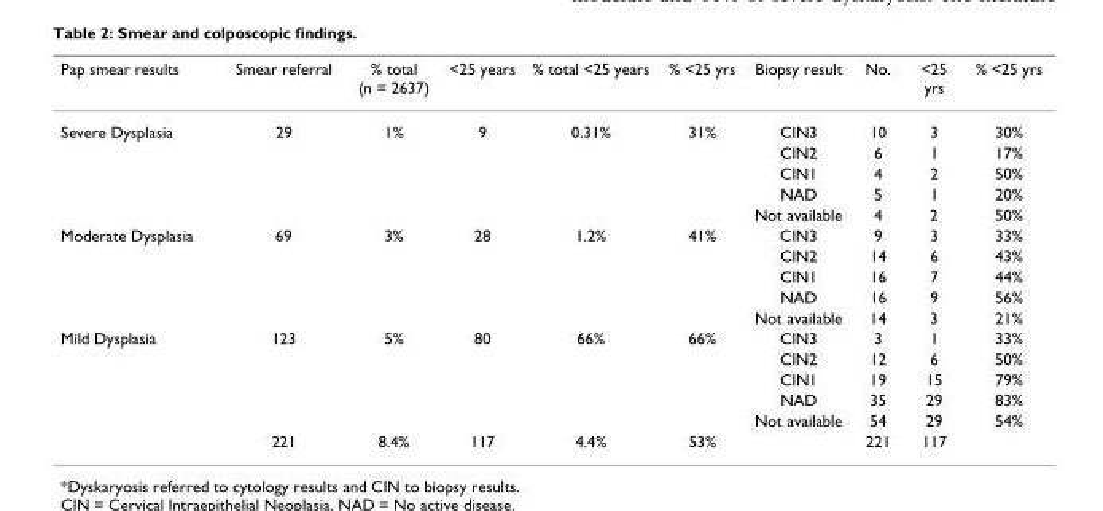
<table><thead><tr><td>Pap smear results</td><td>Smear referral</td><td>% total (n = 2637)</td><td>&lt;25 years</td><td>% total &lt;25 years</td><td>% &lt;25 yrs</td><td>Biopsy result</td><td>No.</td><td>&lt;25 yrs</td><td>% &lt;25 yrs</td></tr></thead><tbody><tr><td rowspan="5">Severe Dysplasia</td><td>29</td><td>1%</td><td>9</td><td>0.31%</td><td>31%</td><td>CIN3</td><td>10</td><td>3</td><td>30%</td></tr><tr><td></td><td></td><td></td><td></td><td></td><td>CIN2</td><td>6</td><td>1</td><td>17%</td></tr><tr><td></td><td></td><td></td><td></td><td></td><td>CIN1</td><td>4</td><td>2</td><td>50%</td></tr><tr><td></td><td></td><td></td><td></td><td></td><td>NAD</td><td>5</td><td>1</td><td>20%</td></tr><tr><td></td><td></td><td></td><td></td><td></td><td>Not available</td><td>4</td><td>2</td><td>50%</td></tr><tr><td rowspan="5">Moderate Dysplasia</td><td>69</td><td>3%</td><td>28</td><td>1.2%</td><td>41%</td><td>CIN3</td><td>9</td><td>3</td><td>33%</td></tr><tr><td></td><td></td><td></td><td></td><td></td><td>CIN2</td><td>14</td><td>6</td><td>43%</td></tr><tr><td></td><td></td><td></td><td></td><td></td><td>CIN1</td><td>16</td><td>7</td><td>44%</td></tr><tr><td></td><td></td><td></td><td></td><td></td><td>NAD</td><td>16</td><td>9</td><td>56%</td></tr><tr><td></td><td></td><td></td><td></td><td></td><td>Not available</td><td>14</td><td>3</td><td>21%</td></tr><tr><td rowspan="6">Mild Dysplasia</td><td>123</td><td>5%</td><td>80</td><td>66%</td><td>66%</td><td>CIN3</td><td>3</td><td>1</td><td>33%</td></tr><tr><td></td><td></td><td></td><td></td><td></td><td>CIN2</td><td>12</td><td>6</td><td>50%</td></tr><tr><td></td><td></td><td></td><td></td><td></td><td>CIN1</td><td>19</td><td>15</td><td>79%</td></tr><tr><td></td><td></td><td></td><td></td><td></td><td>NAD</td><td>35</td><td>29</td><td>83%</td></tr><tr><td></td><td></td><td></td><td></td><td></td><td>Not available</td><td>54</td><td>29</td><td>54%</td></tr><tr><td>221</td><td>8.4%</td><td>117</td><td>4.4%</td><td>53%</td><td></td><td>221</td><td>117</td><td></td></tr></tbody></table>